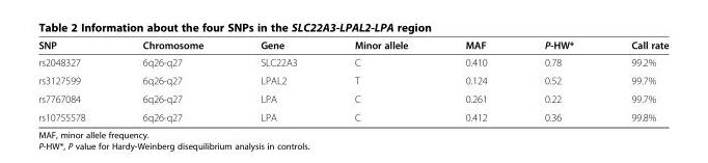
<table><thead><tr><td>SNP</td><td>Chromosome</td><td>Gene</td><td>Minor allele</td><td>MAF</td><td>P-HW*</td><td>Call rate</td></tr></thead><tbody><tr><td>rs2048327</td><td>6q26-q27</td><td>SLC22A3</td><td>C</td><td>0.410</td><td>0.78</td><td>99.2%</td></tr><tr><td>rs3127599</td><td>6q26-q27</td><td>LPAL2</td><td>T</td><td>0.124</td><td>0.52</td><td>99.7%</td></tr><tr><td>rs7767084</td><td>6q26-q27</td><td>LPA</td><td>C</td><td>0.261</td><td>0.22</td><td>99.7%</td></tr><tr><td>rs10755578</td><td>6q26-q27</td><td>LPA</td><td>C</td><td>0.412</td><td>0.36</td><td>99.8%</td></tr></tbody></table>